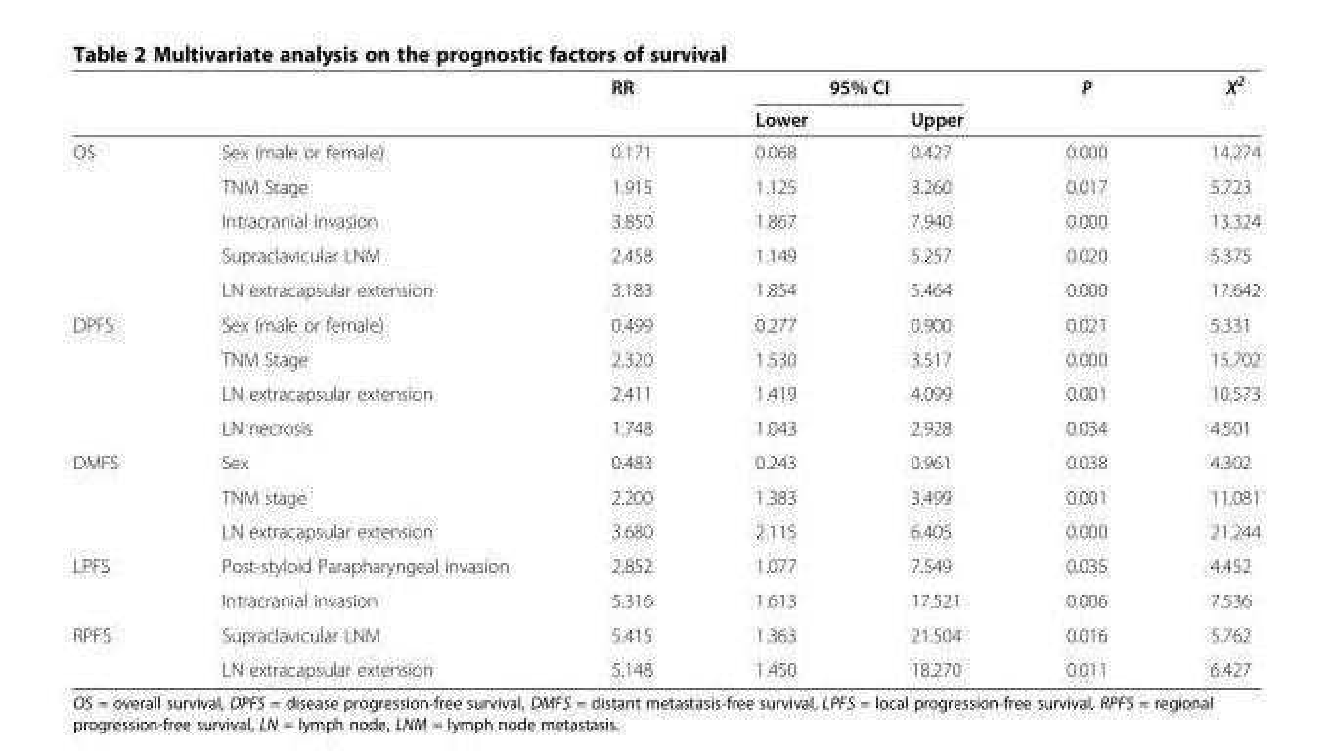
<table><thead><tr><td rowspan="2"></td><td rowspan="2"></td><td rowspan="2">RR</td><td colspan="2">95% CI</td><td rowspan="2">P</td><td rowspan="2">X<sup>2</sup></td></tr><tr><td>Lower</td><td>Upper</td></tr></thead><tbody><tr><td rowspan="5">OS</td><td>Sex (male or female)</td><td>0.171</td><td>0.068</td><td>0.427</td><td>0.000</td><td>14.274</td></tr><tr><td>TNM Stage</td><td>1.915</td><td>1.125</td><td>3.260</td><td>0.017</td><td>5.723</td></tr><tr><td>Intracranial invasion</td><td>3.850</td><td>1.867</td><td>7.940</td><td>0.000</td><td>13.324</td></tr><tr><td>Supraclavicular LNM</td><td>2.458</td><td>1.149</td><td>5.257</td><td>0.020</td><td>5.375</td></tr><tr><td>LN extracapsular extension</td><td>3.183</td><td>1.854</td><td>5.464</td><td>0.000</td><td>17.642</td></tr><tr><td rowspan="4">DPFS</td><td>Sex (male or female)</td><td>0.499</td><td>0.277</td><td>0.900</td><td>0.021</td><td>5.331</td></tr><tr><td>TNM Stage</td><td>2.320</td><td>1.530</td><td>3.517</td><td>0.000</td><td>15.702</td></tr><tr><td>LN extracapsular extension</td><td>2.411</td><td>1.419</td><td>4.099</td><td>0.001</td><td>10.573</td></tr><tr><td>LN necrosis</td><td>1.748</td><td>1.043</td><td>2.928</td><td>0.034</td><td>4.501</td></tr><tr><td rowspan="3">DMFS</td><td>Sex</td><td>0.483</td><td>0.243</td><td>0.961</td><td>0.038</td><td>4.302</td></tr><tr><td>TNM stage</td><td>2.200</td><td>1.383</td><td>3.499</td><td>0.001</td><td>11.081</td></tr><tr><td>LN extracapsular extension</td><td>3.680</td><td>2.115</td><td>6.405</td><td>0.000</td><td>21.244</td></tr><tr><td rowspan="2">LPFS</td><td>Post-styloid Parapharyngeal invasion</td><td>2.852</td><td>1.077</td><td>7.549</td><td>0.035</td><td>4.452</td></tr><tr><td>Intracranial invasion</td><td>5.316</td><td>1.613</td><td>17.521</td><td>0.006</td><td>7.536</td></tr><tr><td rowspan="2">RPFS</td><td>Supraclavicular LNM</td><td>5.415</td><td>1.363</td><td>21.504</td><td>0.016</td><td>5.762</td></tr><tr><td>LN extracapsular extension</td><td>5.148</td><td>1.450</td><td>18.270</td><td>0.011</td><td>6.427</td></tr></tbody></table>